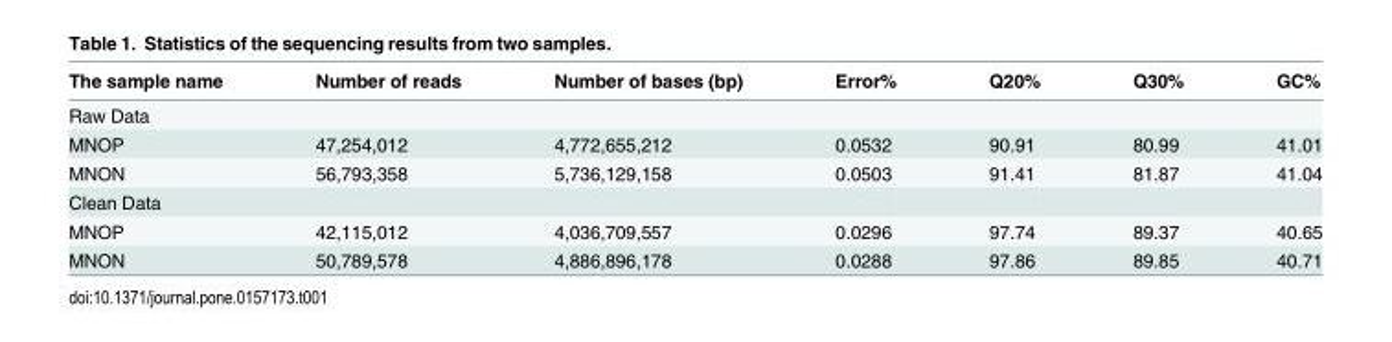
<table><thead><tr><td>The sample name</td><td>Number of reads</td><td>Number of bases (bp)</td><td>Error%</td><td>Q20%</td><td>Q30%</td><td>GC%</td></tr></thead><tbody><tr><td colspan="7">Raw Data</td></tr><tr><td>MNOP</td><td>47,254,012</td><td>4,772,655,212</td><td>0.0532</td><td>90.91</td><td>80.99</td><td>41.01</td></tr><tr><td>MNON</td><td>56,793,358</td><td>5,736,129,158</td><td>0.0503</td><td>91.41</td><td>81.87</td><td>41.04</td></tr><tr><td colspan="7">Clean Data</td></tr><tr><td>MNOP</td><td>42,115,012</td><td>4,036,709,557</td><td>0.0296</td><td>97.74</td><td>89.37</td><td>40.65</td></tr><tr><td>MNON</td><td>50,789,578</td><td>4,886,896,178</td><td>0.0288</td><td>97.86</td><td>89.85</td><td>40.71</td></tr></tbody></table>